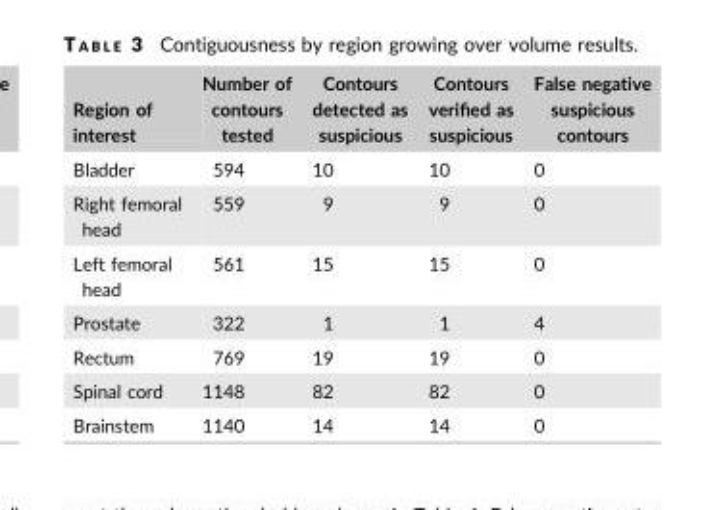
<table><thead><tr><td>Region of interest</td><td>Number of contours tested</td><td>Contours detected as suspicious</td><td>Contours verified as suspicious</td><td>False negative suspicious contours</td></tr></thead><tbody><tr><td>Bladder</td><td>594</td><td>10</td><td>10</td><td>0</td></tr><tr><td>Right femoral head</td><td>559</td><td>9</td><td>9</td><td>0</td></tr><tr><td>Left femoral head</td><td>561</td><td>15</td><td>15</td><td>0</td></tr><tr><td>Prostate</td><td>322</td><td>1</td><td>1</td><td>4</td></tr><tr><td>Rectum</td><td>769</td><td>19</td><td>19</td><td>0</td></tr><tr><td>Spinal cord</td><td>1148</td><td>82</td><td>82</td><td>0</td></tr><tr><td>Brainstem</td><td>1140</td><td>14</td><td>14</td><td>0</td></tr></tbody></table>